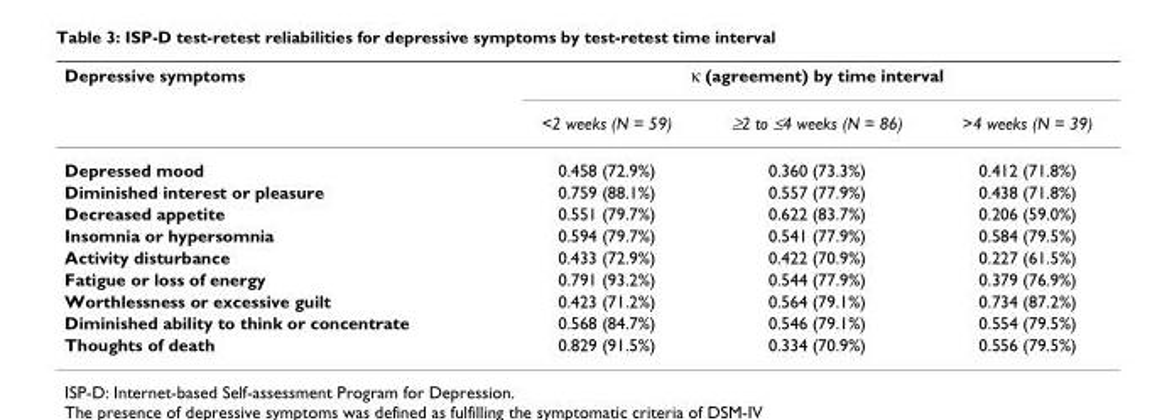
<table><thead><tr><td rowspan="2">Depressive symptoms</td><td colspan="3">κ (agreement) by time interval</td></tr><tr><td>&lt;2 weeks (N = 59)</td><td>≥2 to ≤4 weeks (N = 86)</td><td>&gt;4 weeks (N = 39)</td></tr></thead><tbody><tr><td>Depressed mood</td><td>0.458 (72.9%)</td><td>0.360 (73.3%)</td><td>0.412 (71.8%)</td></tr><tr><td>Diminished interest or pleasure</td><td>0.759 (88.1%)</td><td>0.557 (77.9%)</td><td>0.438 (71.8%)</td></tr><tr><td>Decreased appetite</td><td>0.551 (79.7%)</td><td>0.622 (83.7%)</td><td>0.206 (59.0%)</td></tr><tr><td>Insomnia or hypersomnia</td><td>0.594 (79.7%)</td><td>0.541 (77.9%)</td><td>0.584 (79.5%)</td></tr><tr><td>Activity disturbance</td><td>0.433 (72.9%)</td><td>0.422 (70.9%)</td><td>0.227 (61.5%)</td></tr><tr><td>Fatigue or loss of energy</td><td>0.791 (93.2%)</td><td>0.544 (77.9%)</td><td>0.379 (76.9%)</td></tr><tr><td>Worthlessness or excessive guilt</td><td>0.423 (71.2%)</td><td>0.564 (79.1%)</td><td>0.734 (87.2%)</td></tr><tr><td>Diminished ability to think or concentrate</td><td>0.568 (84.7%)</td><td>0.546 (79.1%)</td><td>0.554 (79.5%)</td></tr><tr><td>Thoughts of death</td><td>0.829 (91.5%)</td><td>0.334 (70.9%)</td><td>0.556 (79.5%)</td></tr></tbody></table>